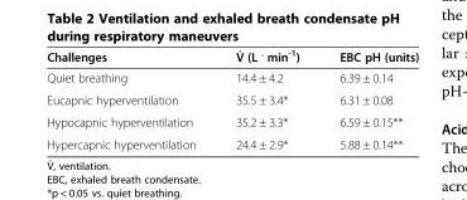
<table><thead><tr><td>Challenges</td><td>V̇ (L <sup>.</sup> min<sup>-1</sup>)</td><td>EBC pH (units)</td></tr></thead><tbody><tr><td>Quiet breathing</td><td>14.4 ± 4.2</td><td>6.39 ± 0.14</td></tr><tr><td>Eucapnic hyperventilation</td><td>35.5 ± 3.4*</td><td>6.31 ± 0.08</td></tr><tr><td>Hypocapnic hyperventilation</td><td>35.2 ± 3.3*</td><td>6.59 ± 0.15**</td></tr><tr><td>Hypercapnic hyperventilation</td><td>24.4 ± 2.9*</td><td>5.88 ± 0.14**</td></tr></tbody></table>